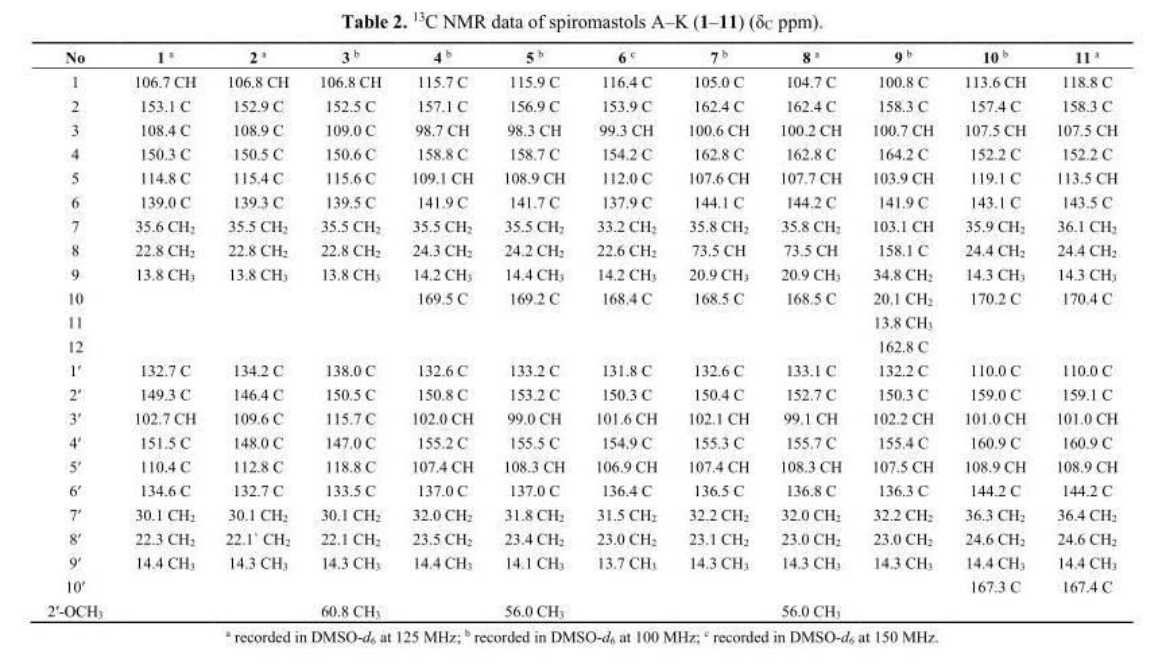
<table><thead><tr><td>No</td><td>1 <sup>a</sup></td><td>2 <sup>a</sup></td><td>3 <sup>b</sup></td><td>4 <sup>b</sup></td><td>5 <sup>b</sup></td><td>6 <sup>c</sup></td><td>7 <sup>b</sup></td><td>8 <sup>a</sup></td><td>9 <sup>b</sup></td><td>10 <sup>b</sup></td><td>11 <sup>a</sup></td></tr></thead><tbody><tr><td>1</td><td>106.7 CH</td><td>106.8 CH</td><td>106.8 CH</td><td>115.7 C</td><td>115.9 C</td><td>116.4 C</td><td>105.0 C</td><td>104.7 C</td><td>100.8 C</td><td>113.6 CH</td><td>118.8 C</td></tr><tr><td>2</td><td>153.1 C</td><td>152.9 C</td><td>152.5 C</td><td>157.1 C</td><td>156.9 C</td><td>153.9 C</td><td>162.4 C</td><td>162.4 C</td><td>158.3 C</td><td>157.4 C</td><td>158.3 C</td></tr><tr><td>3</td><td>108.4 C</td><td>108.9 C</td><td>109.0 C</td><td>98.7 CH</td><td>98.3 CH</td><td>99.3 CH</td><td>100.6 CH</td><td>100.2 CH</td><td>100.7 CH</td><td>107.5 CH</td><td>107.5 CH</td></tr><tr><td>4</td><td>150.3 C</td><td>150.5 C</td><td>150.6 C</td><td>158.8 C</td><td>158.7 C</td><td>154.2 C</td><td>162.8 C</td><td>162.8 C</td><td>164.2 C</td><td>152.2 C</td><td>152.2 C</td></tr><tr><td>5</td><td>114.8 C</td><td>115.4 C</td><td>115.6 C</td><td>109.1 CH</td><td>108.9 CH</td><td>112.0 C</td><td>107.6 CH</td><td>107.7 CH</td><td>103.9 CH</td><td>119.1 C</td><td>113.5 CH</td></tr><tr><td>6</td><td>139.0 C</td><td>139.3 C</td><td>139.5 C</td><td>141.9 C</td><td>141.7 C</td><td>137.9 C</td><td>144.1 C</td><td>144.2 C</td><td>141.9 C</td><td>143.1 C</td><td>143.5 C</td></tr><tr><td>7</td><td>35.6 CH<sub>2</sub></td><td>35.5 CH<sub>2</sub></td><td>35.5 CH<sub>2</sub></td><td>35.5 CH<sub>2</sub></td><td>35.5 CH<sub>2</sub></td><td>33.2 CH<sub>2</sub></td><td>35.8 CH<sub>2</sub></td><td>35.8 CH<sub>2</sub></td><td>103.1 CH</td><td>35.9 CH<sub>2</sub></td><td>36.1 CH<sub>2</sub></td></tr><tr><td>8</td><td>22.8 CH<sub>2</sub></td><td>22.8 CH<sub>2</sub></td><td>22.8 CH<sub>2</sub></td><td>24.3 CH<sub>2</sub></td><td>24.2 CH<sub>2</sub></td><td>22.6 CH<sub>2</sub></td><td>73.5 CH</td><td>73.5 CH</td><td>158.1 C</td><td>24.4 CH<sub>2</sub></td><td>24.4 CH<sub>2</sub></td></tr><tr><td>9</td><td>13.8 CH<sub>3</sub></td><td>13.8 CH<sub>3</sub></td><td>13.8 CH<sub>3</sub></td><td>14.2 CH<sub>3</sub></td><td>14.4 CH<sub>3</sub></td><td>14.2 CH<sub>3</sub></td><td>20.9 CH<sub>3</sub></td><td>20.9 CH<sub>3</sub></td><td>34.8 CH<sub>2</sub></td><td>14.3 CH<sub>3</sub></td><td>14.3 CH<sub>3</sub></td></tr><tr><td>10</td><td></td><td></td><td></td><td>169.5 C</td><td>169.2 C</td><td>168.4 C</td><td>168.5 C</td><td>168.5 C</td><td>20.1 CH<sub>2</sub></td><td>170.2 C</td><td>170.4 C</td></tr><tr><td>11</td><td></td><td></td><td></td><td></td><td></td><td></td><td></td><td></td><td>13.8 CH<sub>3</sub></td><td></td><td></td></tr><tr><td>12</td><td></td><td></td><td></td><td></td><td></td><td></td><td></td><td></td><td>162.8 C</td><td></td><td></td></tr><tr><td>1′</td><td>132.7 C</td><td>134.2 C</td><td>138.0 C</td><td>132.6 C</td><td>133.2 C</td><td>131.8 C</td><td>132.6 C</td><td>133.1 C</td><td>132.2 C</td><td>110.0 C</td><td>110.0 C</td></tr><tr><td>2′</td><td>149.3 C</td><td>146.4 C</td><td>150.5 C</td><td>150.8 C</td><td>153.2 C</td><td>150.3 C</td><td>150.4 C</td><td>152.7 C</td><td>150.3 C</td><td>159.0 C</td><td>159.1 C</td></tr><tr><td>3′</td><td>102.7 CH</td><td>109.6 C</td><td>115.7 C</td><td>102.0 CH</td><td>99.0 CH</td><td>101.6 CH</td><td>102.1 CH</td><td>99.1 CH</td><td>102.2 CH</td><td>101.0 CH</td><td>101.0 CH</td></tr><tr><td>4′</td><td>151.5 C</td><td>148.0 C</td><td>147.0 C</td><td>155.2 C</td><td>155.5 C</td><td>154.9 C</td><td>155.3 C</td><td>155.7 C</td><td>155.4 C</td><td>160.9 C</td><td>160.9 C</td></tr><tr><td>5′</td><td>110.4 C</td><td>112.8 C</td><td>118.8 C</td><td>107.4 CH</td><td>108.3 CH</td><td>106.9 CH</td><td>107.4 CH</td><td>108.3 CH</td><td>107.5 CH</td><td>108.9 CH</td><td>108.9 CH</td></tr><tr><td>6′</td><td>134.6 C</td><td>132.7 C</td><td>133.5 C</td><td>137.0 C</td><td>137.0 C</td><td>136.4 C</td><td>136.5 C</td><td>136.8 C</td><td>136.3 C</td><td>144.2 C</td><td>144.2 C</td></tr><tr><td>7′</td><td>30.1 CH<sub>2</sub></td><td>30.1 CH<sub>2</sub></td><td>30.1 CH<sub>2</sub></td><td>32.0 CH<sub>2</sub></td><td>31.8 CH<sub>2</sub></td><td>31.5 CH<sub>2</sub></td><td>32.2 CH<sub>2</sub></td><td>32.0 CH<sub>2</sub></td><td>32.2 CH<sub>2</sub></td><td>36.3 CH<sub>2</sub></td><td>36.4 CH<sub>2</sub></td></tr><tr><td>8′</td><td>22.3 CH<sub>2</sub></td><td>22.1` CH<sub>2</sub></td><td>22.1 CH<sub>2</sub></td><td>23.5 CH<sub>2</sub></td><td>23.4 CH<sub>2</sub></td><td>23.0 CH<sub>2</sub></td><td>23.1 CH<sub>2</sub></td><td>23.0 CH<sub>2</sub></td><td>23.0 CH<sub>2</sub></td><td>24.6 CH<sub>2</sub></td><td>24.6 CH<sub>2</sub></td></tr><tr><td>9′</td><td>14.4 CH<sub>3</sub></td><td>14.3 CH<sub>3</sub></td><td>14.3 CH<sub>3</sub></td><td>14.4 CH<sub>3</sub></td><td>14.1 CH<sub>3</sub></td><td>13.7 CH<sub>3</sub></td><td>14.3 CH<sub>3</sub></td><td>14.3 CH<sub>3</sub></td><td>14.3 CH<sub>3</sub></td><td>14.4 CH<sub>3</sub></td><td>14.4 CH<sub>3</sub></td></tr><tr><td>10′</td><td></td><td></td><td></td><td></td><td></td><td></td><td></td><td></td><td></td><td>167.3 C</td><td>167.4 C</td></tr><tr><td>2′-OCH<sub>3</sub></td><td></td><td></td><td>60.8 CH<sub>3</sub></td><td></td><td>56.0 CH<sub>3</sub></td><td></td><td></td><td>56.0 CH<sub>3</sub></td><td></td><td></td><td></td></tr></tbody></table>